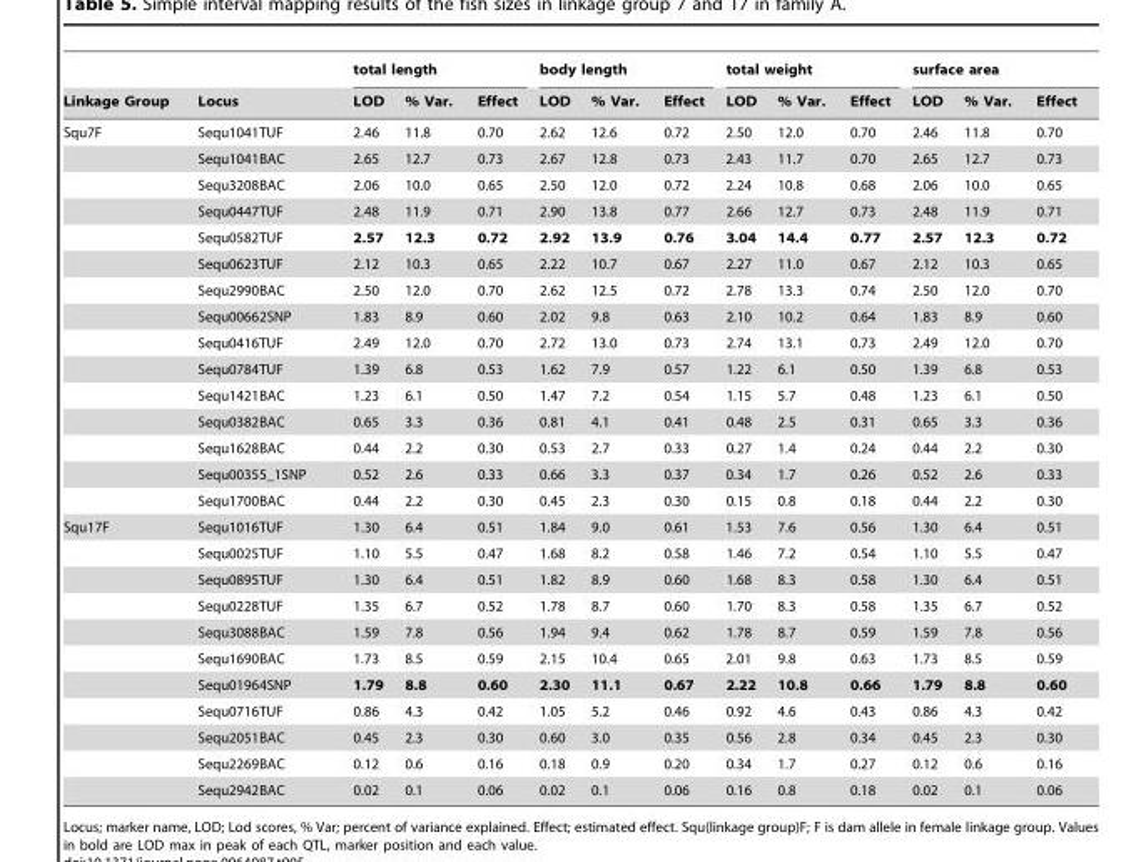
<table><thead><tr><td rowspan="2">Linkage Group</td><td rowspan="2">Locus</td><td colspan="3">total length</td><td colspan="3">body length</td><td colspan="3">total weight</td><td colspan="3">surface area</td></tr><tr><td>LOD</td><td>% Var.</td><td>Effect</td><td>LOD</td><td>% Var.</td><td>Effect</td><td>LOD</td><td>% Var.</td><td>Effect</td><td>LOD</td><td>% Var.</td><td>Effect</td></tr></thead><tbody><tr><td rowspan="15">Squ7F</td><td>Sequ1041TUF</td><td>2.46</td><td>11.8</td><td>0.70</td><td>2.62</td><td>12.6</td><td>0.72</td><td>2.50</td><td>12.0</td><td>0.70</td><td>2.46</td><td>11.8</td><td>0.70</td></tr><tr><td>Sequ1041BAC</td><td>2.65</td><td>12.7</td><td>0.73</td><td>2.67</td><td>12.8</td><td>0.73</td><td>2.43</td><td>11.7</td><td>0.70</td><td>2.65</td><td>12.7</td><td>0.73</td></tr><tr><td>Sequ3208BAC</td><td>2.06</td><td>10.0</td><td>0.65</td><td>2.50</td><td>12.0</td><td>0.72</td><td>2.24</td><td>10.8</td><td>0.68</td><td>2.06</td><td>10.0</td><td>0.65</td></tr><tr><td>Sequ0447TUF</td><td>2.48</td><td>11.9</td><td>0.71</td><td>2.90</td><td>13.8</td><td>0.77</td><td>2.66</td><td>12.7</td><td>0.73</td><td>2.48</td><td>11.9</td><td>0.71</td></tr><tr><td>Sequ0582TUF</td><td>2.57</td><td>12.3</td><td>0.72</td><td>2.92</td><td>13.9</td><td>0.76</td><td>3.04</td><td>14.4</td><td>0.77</td><td>2.57</td><td>12.3</td><td>0.72</td></tr><tr><td>Sequ0623TUF</td><td>2.12</td><td>10.3</td><td>0.65</td><td>2.22</td><td>10.7</td><td>0.67</td><td>2.27</td><td>11.0</td><td>0.67</td><td>2.12</td><td>10.3</td><td>0.65</td></tr><tr><td>Sequ2990BAC</td><td>2.50</td><td>12.0</td><td>0.70</td><td>2.62</td><td>12.5</td><td>0.72</td><td>2.78</td><td>13.3</td><td>0.74</td><td>2.50</td><td>12.0</td><td>0.70</td></tr><tr><td>Sequ00662SNP</td><td>1.83</td><td>8.9</td><td>0.60</td><td>2.02</td><td>9.8</td><td>0.63</td><td>2.10</td><td>10.2</td><td>0.64</td><td>1.83</td><td>8.9</td><td>0.60</td></tr><tr><td>Sequ0416TUF</td><td>2.49</td><td>12.0</td><td>0.70</td><td>2.72</td><td>13.0</td><td>0.73</td><td>2.74</td><td>13.1</td><td>0.73</td><td>2.49</td><td>12.0</td><td>0.70</td></tr><tr><td>Sequ0784TUF</td><td>1.39</td><td>6.8</td><td>0.53</td><td>1.62</td><td>7.9</td><td>0.57</td><td>1.22</td><td>6.1</td><td>0.50</td><td>1.39</td><td>6.8</td><td>0.53</td></tr><tr><td>Sequ1421BAC</td><td>1.23</td><td>6.1</td><td>0.50</td><td>1.47</td><td>7.2</td><td>0.54</td><td>1.15</td><td>5.7</td><td>0.48</td><td>1.23</td><td>6.1</td><td>0.50</td></tr><tr><td>Sequ0382BAC</td><td>0.65</td><td>3.3</td><td>0.36</td><td>0.81</td><td>4.1</td><td>0.41</td><td>0.48</td><td>2.5</td><td>0.31</td><td>0.65</td><td>3.3</td><td>0.36</td></tr><tr><td>Sequ1628BAC</td><td>0.44</td><td>2.2</td><td>0.30</td><td>0.53</td><td>2.7</td><td>0.33</td><td>0.27</td><td>1.4</td><td>0.24</td><td>0.44</td><td>2.2</td><td>0.30</td></tr><tr><td>Sequ00355_1SNP</td><td>0.52</td><td>2.6</td><td>0.33</td><td>0.66</td><td>3.3</td><td>0.37</td><td>0.34</td><td>1.7</td><td>0.26</td><td>0.52</td><td>2.6</td><td>0.33</td></tr><tr><td>Sequ1700BAC</td><td>0.44</td><td>2.2</td><td>0.30</td><td>0.45</td><td>2.3</td><td>0.30</td><td>0.15</td><td>0.8</td><td>0.18</td><td>0.44</td><td>2.2</td><td>0.30</td></tr><tr><td rowspan="11">Squ17F</td><td>Sequ1016TUF</td><td>1.30</td><td>6.4</td><td>0.51</td><td>1.84</td><td>9.0</td><td>0.61</td><td>1.53</td><td>7.6</td><td>0.56</td><td>1.30</td><td>6.4</td><td>0.51</td></tr><tr><td>Sequ0025TUF</td><td>1.10</td><td>5.5</td><td>0.47</td><td>1.68</td><td>8.2</td><td>0.58</td><td>1.46</td><td>7.2</td><td>0.54</td><td>1.10</td><td>5.5</td><td>0.47</td></tr><tr><td>Sequ0895TUF</td><td>1.30</td><td>6.4</td><td>0.51</td><td>1.82</td><td>8.9</td><td>0.60</td><td>1.68</td><td>8.3</td><td>0.58</td><td>1.30</td><td>6.4</td><td>0.51</td></tr><tr><td>Sequ0228TUF</td><td>1.35</td><td>6.7</td><td>0.52</td><td>1.78</td><td>8.7</td><td>0.60</td><td>1.70</td><td>8.3</td><td>0.58</td><td>1.35</td><td>6.7</td><td>0.52</td></tr><tr><td>Sequ3088BAC</td><td>1.59</td><td>7.8</td><td>0.56</td><td>1.94</td><td>9.4</td><td>0.62</td><td>1.78</td><td>8.7</td><td>0.59</td><td>1.59</td><td>7.8</td><td>0.56</td></tr><tr><td>Sequ1690BAC</td><td>1.73</td><td>8.5</td><td>0.59</td><td>2.15</td><td>10.4</td><td>0.65</td><td>2.01</td><td>9.8</td><td>0.63</td><td>1.73</td><td>8.5</td><td>0.59</td></tr><tr><td>Sequ01964SNP</td><td>1.79</td><td>8.8</td><td>0.60</td><td>2.30</td><td>11.1</td><td>0.67</td><td>2.22</td><td>10.8</td><td>0.66</td><td>1.79</td><td>8.8</td><td>0.60</td></tr><tr><td>Sequ0716TUF</td><td>0.86</td><td>4.3</td><td>0.42</td><td>1.05</td><td>5.2</td><td>0.46</td><td>0.92</td><td>4.6</td><td>0.43</td><td>0.86</td><td>4.3</td><td>0.42</td></tr><tr><td>Sequ2051BAC</td><td>0.45</td><td>2.3</td><td>0.30</td><td>0.60</td><td>3.0</td><td>0.35</td><td>0.56</td><td>2.8</td><td>0.34</td><td>0.45</td><td>2.3</td><td>0.30</td></tr><tr><td>Sequ2269BAC</td><td>0.12</td><td>0.6</td><td>0.16</td><td>0.18</td><td>0.9</td><td>0.20</td><td>0.34</td><td>1.7</td><td>0.27</td><td>0.12</td><td>0.6</td><td>0.16</td></tr><tr><td>Sequ2942BAC</td><td>0.02</td><td>0.1</td><td>0.06</td><td>0.02</td><td>0.1</td><td>0.06</td><td>0.16</td><td>0.8</td><td>0.18</td><td>0.02</td><td>0.1</td><td>0.06</td></tr></tbody></table>